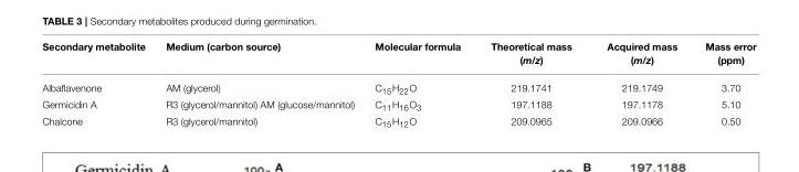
<table><thead><tr><td>Secondary metabolite</td><td>Medium (carbon source)</td><td>Molecular formula</td><td>Theoretical mass (m/z)</td><td>Acquired mass (m/z)</td><td>Mass error (ppm)</td></tr></thead><tbody><tr><td>Albaflavenone</td><td>AM (glycerol)</td><td>C<sub>15</sub>H<sub>22</sub>O</td><td>219.1741</td><td>219.1749</td><td>3.70</td></tr><tr><td>Germicidin A</td><td>R3 (glycerol/mannitol) AM (glucose/mannitol)</td><td>C<sub>11</sub>H<sub>16</sub>O<sub>3</sub></td><td>197.1188</td><td>197.1178</td><td>5.10</td></tr><tr><td>Chalcone</td><td>R3 (glycerol/mannitol)</td><td>C<sub>15</sub>H<sub>12</sub>O</td><td>209.0965</td><td>209.0966</td><td>0.50</td></tr></tbody></table>